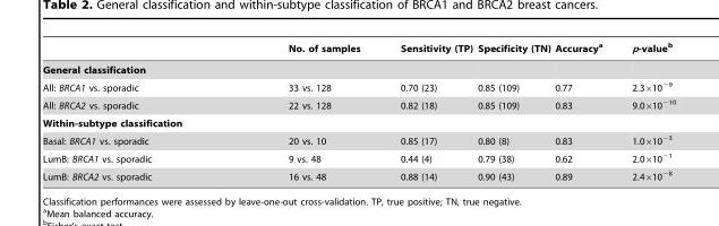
<table><thead><tr><td></td><td>No. of samples</td><td>Sensitivity (TP)</td><td>Specificity (TN)</td><td>Accuracy<sup>a</sup></td><td>p-value<sup>b</sup></td></tr></thead><tbody><tr><td colspan="6">General classification</td></tr><tr><td>All: BRCA1 vs. sporadic</td><td>33 vs. 128</td><td>0.70 (23)</td><td>0.85 (109)</td><td>0.77</td><td>2.3×10<sup>−9</sup></td></tr><tr><td>All: BRCA2 vs. sporadic</td><td>22 vs. 128</td><td>0.82 (18)</td><td>0.85 (109)</td><td>0.83</td><td>9.0×10<sup>−10</sup></td></tr><tr><td colspan="6">Within-subtype classification</td></tr><tr><td>Basal: BRCA1 vs. sporadic</td><td>20 vs. 10</td><td>0.85 (17)</td><td>0.80 (8)</td><td>0.83</td><td>1.0×10<sup>−3</sup></td></tr><tr><td>LumB: BRCA1 vs. sporadic</td><td>9 vs. 48</td><td>0.44 (4)</td><td>0.79 (38)</td><td>0.62</td><td>2.0×10<sup>−1</sup></td></tr><tr><td>LumB: BRCA2 vs. sporadic</td><td>16 vs. 48</td><td>0.88 (14)</td><td>0.90 (43)</td><td>0.89</td><td>2.4×10<sup>−8</sup></td></tr></tbody></table>